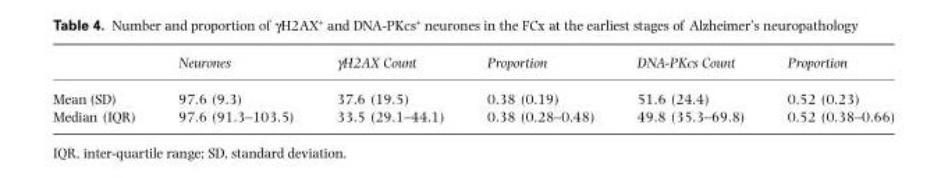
<table><thead><tr><td></td><td>Neurones</td><td>γH2AX Count</td><td>Proportion</td><td>DNA-PKcs Count</td><td>Proportion</td></tr></thead><tbody><tr><td>Mean (SD)</td><td>97.6 (9.3)</td><td>37.6 (19.5)</td><td>0.38 (0.19)</td><td>51.6 (24.4)</td><td>0.52 (0.23)</td></tr><tr><td>Median (IQR)</td><td>97.6 (91.3–103.5)</td><td>33.5 (29.1–44.1)</td><td>0.38 (0.28–0.48)</td><td>49.8 (35.3–69.8)</td><td>0.52 (0.38–0.66)</td></tr></tbody></table>